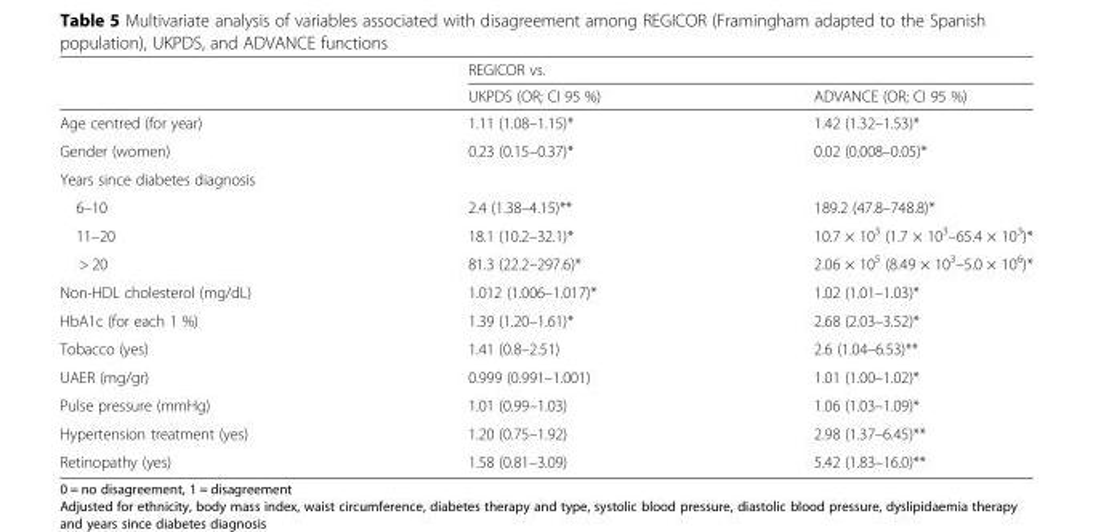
<table><thead><tr><td rowspan="2"></td><td colspan="2">REGICOR vs.</td></tr><tr><td>UKPDS (OR; CI 95 %)</td><td>ADVANCE (OR; CI 95 %)</td></tr></thead><tbody><tr><td>Age centred (for year)</td><td>1.11 (1.08–1.15)*</td><td>1.42 (1.32–1.53)*</td></tr><tr><td>Gender (women)</td><td>0.23 (0.15–0.37)*</td><td>0.02 (0.008–0.05)*</td></tr><tr><td colspan="3">Years since diabetes diagnosis</td></tr><tr><td>6–10</td><td>2.4 (1.38–4.15)**</td><td>189.2 (47.8–748.8)*</td></tr><tr><td>11–20</td><td>18.1 (10.2–32.1)*</td><td>10.7 × 10<sup>3</sup> (1.7 × 10<sup>3</sup>–65.4 × 10<sup>3</sup>)*</td></tr><tr><td>&gt; 20</td><td>81.3 (22.2–297.6)*</td><td>2.06 × 10<sup>5</sup> (8.49 × 10<sup>3</sup>–5.0 × 10<sup>6</sup>)*</td></tr><tr><td>Non-HDL cholesterol (mg/dL)</td><td>1.012 (1.006–1.017)*</td><td>1.02 (1.01–1.03)*</td></tr><tr><td>HbA1c (for each 1 %)</td><td>1.39 (1.20–1.61)*</td><td>2.68 (2.03–3.52)*</td></tr><tr><td>Tobacco (yes)</td><td>1.41 (0.8–2.51)</td><td>2.6 (1.04–6.53)**</td></tr><tr><td>UAER (mg/gr)</td><td>0.999 (0.991–1.001)</td><td>1.01 (1.00–1.02)*</td></tr><tr><td>Pulse pressure (mmHg)</td><td>1.01 (0.99–1.03)</td><td>1.06 (1.03–1.09)*</td></tr><tr><td>Hypertension treatment (yes)</td><td>1.20 (0.75–1.92)</td><td>2.98 (1.37–6.45)**</td></tr><tr><td>Retinopathy (yes)</td><td>1.58 (0.81–3.09)</td><td>5.42 (1.83–16.0)**</td></tr></tbody></table>